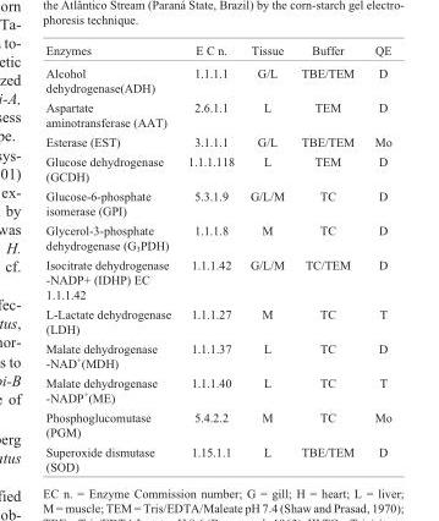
<table><thead><tr><td>Enzymes</td><td>E C n.</td><td>Tissue</td><td>Buffer</td><td>QE</td></tr></thead><tbody><tr><td>Alcohol dehydrogenase(ADH)</td><td>1.1.1.1</td><td>G/L</td><td>TBE/TEM</td><td>D</td></tr><tr><td>Aspartate aminotransferase (AAT)</td><td>2.6.1.1</td><td>L</td><td>TEM</td><td>D</td></tr><tr><td>Esterase (EST)</td><td>3.1.1.1</td><td>G/L</td><td>TBE/TEM</td><td>Mo</td></tr><tr><td>Glucose dehydrogenase (GCDH)</td><td>1.1.1.118</td><td>L</td><td>TEM</td><td>D</td></tr><tr><td>Glucose-6-phosphate isomerase (GPI)</td><td>5.3.1.9</td><td>G/L/M</td><td>TC</td><td>D</td></tr><tr><td>Glycerol-3-phosphate dehydrogenase (G<sub>3</sub>PDH)</td><td>1.1.1.8</td><td>M</td><td>TC</td><td>D</td></tr><tr><td>Isocitrate dehydrogenase -NADP+ (IDHP) EC 1.1.1.42</td><td>1.1.1.42</td><td>G/L/M</td><td>TC/TEM</td><td>D</td></tr><tr><td>L-Lactate dehydrogenase (LDH)</td><td>1.1.1.27</td><td>M</td><td>TC</td><td>T</td></tr><tr><td>Malate dehydrogenase -NAD<sup>+</sup>(MDH)</td><td>1.1.1.37</td><td>L</td><td>TC</td><td>D</td></tr><tr><td>Malate dehydrogenase -NADP<sup>+</sup>(ME)</td><td>1.1.1.40</td><td>L</td><td>TC</td><td>T</td></tr><tr><td>Phosphoglucomutase (PGM)</td><td>5.4.2.2</td><td>M</td><td>TC</td><td>Mo</td></tr><tr><td>Superoxide dismutase (SOD)</td><td>1.15.1.1</td><td>L</td><td>TBE/TEM</td><td>D</td></tr></tbody></table>